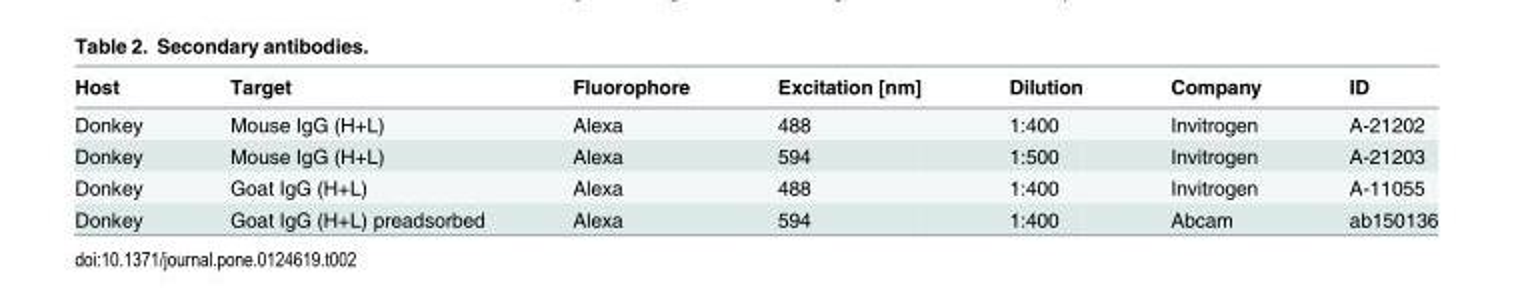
<table><thead><tr><td>Host</td><td>Target</td><td>Fluorophore</td><td>Excitation [nm]</td><td>Dilution</td><td>Company</td><td>ID</td></tr></thead><tbody><tr><td>Donkey</td><td>Mouse IgG (H+L)</td><td>Alexa</td><td>488</td><td>1:400</td><td>Invitrogen</td><td>A-21202</td></tr><tr><td>Donkey</td><td>Mouse IgG (H+L)</td><td>Alexa</td><td>594</td><td>1:500</td><td>Invitrogen</td><td>A-21203</td></tr><tr><td>Donkey</td><td>Goat IgG (H+L)</td><td>Alexa</td><td>488</td><td>1:400</td><td>Invitrogen</td><td>A-11055</td></tr><tr><td>Donkey</td><td>Goat IgG (H+L) preadsorbed</td><td>Alexa</td><td>594</td><td>1:400</td><td>Abcam</td><td>ab150136</td></tr></tbody></table>